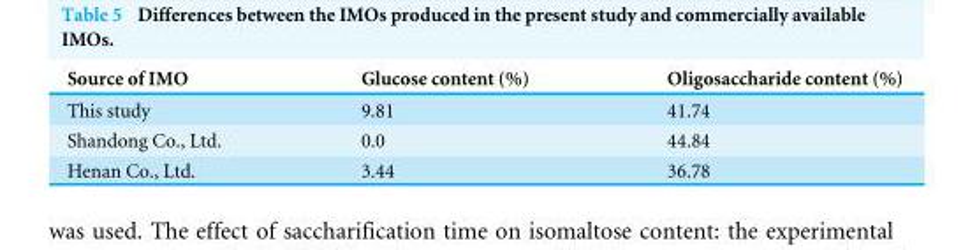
<table><thead><tr><td>Source of IMO</td><td>Glucose content (%)</td><td>Oligosaccharide content (%)</td></tr></thead><tbody><tr><td>This study</td><td>9.81</td><td>41.74</td></tr><tr><td>Shandong Co., Ltd.</td><td>0.0</td><td>44.84</td></tr><tr><td>Henan Co., Ltd.</td><td>3.44</td><td>36.78</td></tr></tbody></table>